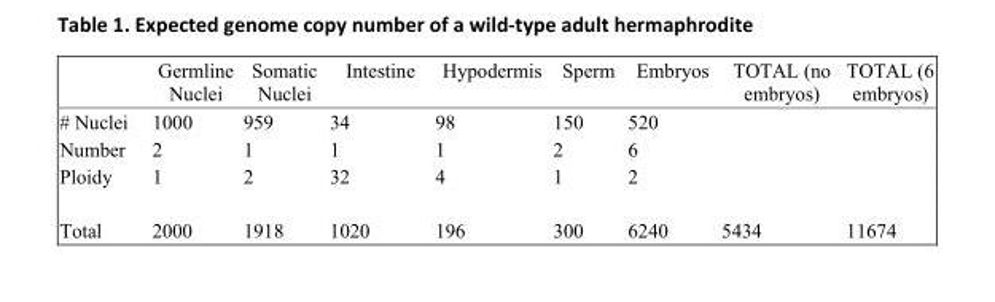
<table><thead><tr><td></td><td>Germline Nuclei</td><td>Somatic Nuclei</td><td>Intestine</td><td>Hypodermis</td><td>Sperm</td><td>Embryos</td><td>TOTAL (no embryos)</td><td>TOTAL (6 embryos)</td></tr></thead><tbody><tr><td># Nuclei</td><td>1000</td><td>959</td><td>34</td><td>98</td><td>150</td><td>520</td><td></td><td></td></tr><tr><td>Number</td><td>2</td><td>1</td><td>1</td><td>1</td><td>2</td><td>6</td><td></td><td></td></tr><tr><td>Ploidy</td><td>1</td><td>2</td><td>32</td><td>4</td><td>1</td><td>2</td><td></td><td></td></tr><tr><td>Total</td><td>2000</td><td>1918</td><td>1020</td><td>196</td><td>300</td><td>6240</td><td>5434</td><td>11674</td></tr></tbody></table>